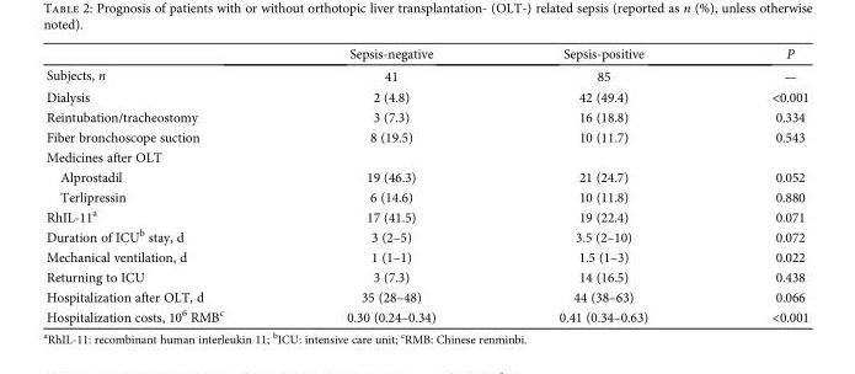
<table><thead><tr><td></td><td>Sepsis-negative</td><td>Sepsis-positive</td><td>P</td></tr></thead><tbody><tr><td>Subjects, n</td><td>41</td><td>85</td><td>—</td></tr><tr><td>Dialysis</td><td>2 (4.8)</td><td>42 (49.4)</td><td>&lt;0.001</td></tr><tr><td>Reintubation/tracheostomy</td><td>3 (7.3)</td><td>16 (18.8)</td><td>0.334</td></tr><tr><td>Fiber bronchoscope suction</td><td>8 (19.5)</td><td>10 (11.7)</td><td>0.543</td></tr><tr><td colspan="4">Medicines after OLT</td></tr><tr><td>Alprostadil</td><td>19 (46.3)</td><td>21 (24.7)</td><td>0.052</td></tr><tr><td>Terlipressin</td><td>6 (14.6)</td><td>10 (11.8)</td><td>0.880</td></tr><tr><td>RhIL-11<sup>a</sup></td><td>17 (41.5)</td><td>19 (22.4)</td><td>0.071</td></tr><tr><td>Duration of ICU<sup>b</sup> stay, d</td><td>3 (2–5)</td><td>3.5 (2–10)</td><td>0.072</td></tr><tr><td>Mechanical ventilation, d</td><td>1 (1–1)</td><td>1.5 (1–3)</td><td>0.022</td></tr><tr><td>Returning to ICU</td><td>3 (7.3)</td><td>14 (16.5)</td><td>0.438</td></tr><tr><td>Hospitalization after OLT, d</td><td>35 (28–48)</td><td>44 (38–63)</td><td>0.066</td></tr><tr><td>Hospitalization costs, 10<sup>6</sup> RMB<sup>c</sup></td><td>0.30 (0.24–0.34)</td><td>0.41 (0.34–0.63)</td><td>&lt;0.001</td></tr></tbody></table>